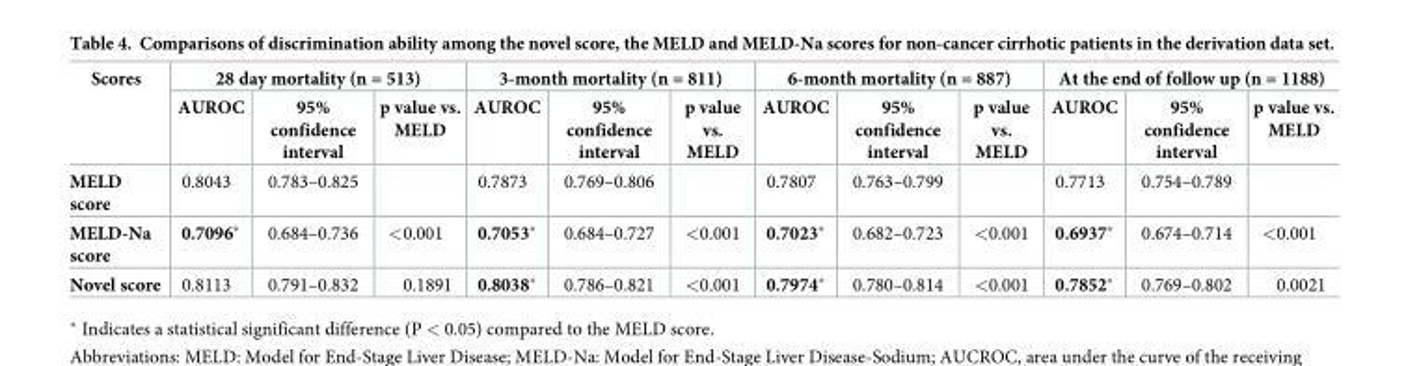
<table><thead><tr><td rowspan="2">Scores</td><td colspan="3">28 day mortality (n = 513)</td><td colspan="3">3-month mortality (n = 811)</td><td colspan="3">6-month mortality (n = 887)</td><td colspan="3">At the end of follow up (n = 1188)</td></tr><tr><td>AUROC</td><td>95% confidence interval</td><td>p value vs. MELD</td><td>AUROC</td><td>95% confidence interval</td><td>p value vs. MELD</td><td>AUROC</td><td>95% confidence interval</td><td>p value vs. MELD</td><td>AUROC</td><td>95% confidence interval</td><td>p value vs. MELD</td></tr></thead><tbody><tr><td>MELD score</td><td>0.8043</td><td>0.783–0.825</td><td></td><td>0.7873</td><td>0.769–0.806</td><td></td><td>0.7807</td><td>0.763–0.799</td><td></td><td>0.7713</td><td>0.754–0.789</td><td></td></tr><tr><td>MELD-Na score</td><td>0.7096*</td><td>0.684–0.736</td><td>&lt;0.001</td><td>0.7053*</td><td>0.684–0.727</td><td>&lt;0.001</td><td>0.7023*</td><td>0.682–0.723</td><td>&lt;0.001</td><td>0.6937*</td><td>0.674–0.714</td><td>&lt;0.001</td></tr><tr><td>Novel score</td><td>0.8113</td><td>0.791–0.832</td><td>0.1891</td><td>0.8038*</td><td>0.786–0.821</td><td>&lt;0.001</td><td>0.7974*</td><td>0.780–0.814</td><td>&lt;0.001</td><td>0.7852*</td><td>0.769–0.802</td><td>0.0021</td></tr></tbody></table>